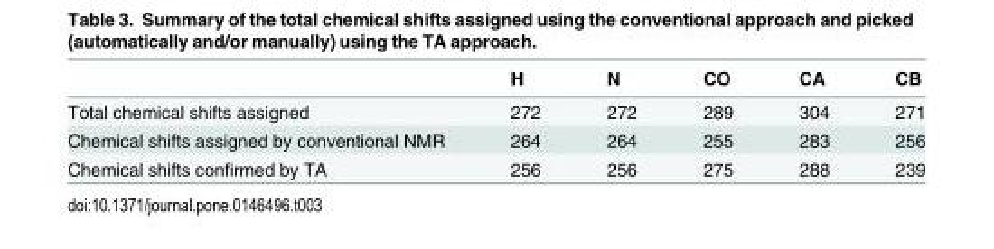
<table><thead><tr><td></td><td>H</td><td>N</td><td>CO</td><td>CA</td><td>CB</td></tr></thead><tbody><tr><td>Total chemical shifts assigned</td><td>272</td><td>272</td><td>289</td><td>304</td><td>271</td></tr><tr><td>Chemical shifts assigned by conventional NMR</td><td>264</td><td>264</td><td>255</td><td>283</td><td>256</td></tr><tr><td>Chemical shifts confirmed by TA</td><td>256</td><td>256</td><td>275</td><td>288</td><td>239</td></tr></tbody></table>